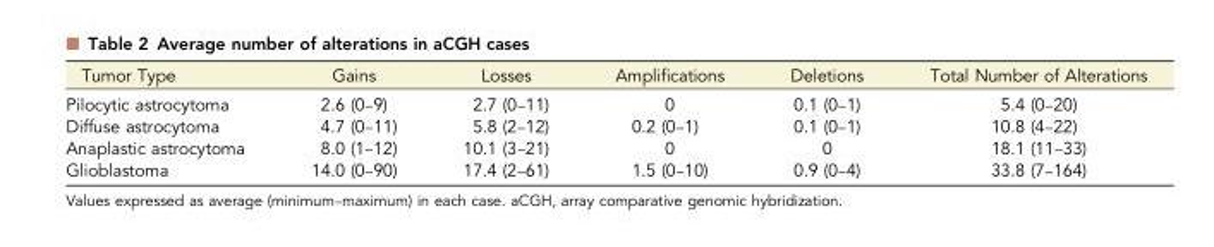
<table><thead><tr><td>Tumor Type</td><td>Gains</td><td>Losses</td><td>Amplifications</td><td>Deletions</td><td>Total Number of Alterations</td></tr></thead><tbody><tr><td>Pilocytic astrocytoma</td><td>2.6 (0–9)</td><td>2.7 (0–11)</td><td>0</td><td>0.1 (0–1)</td><td>5.4 (0–20)</td></tr><tr><td>Diffuse astrocytoma</td><td>4.7 (0–11)</td><td>5.8 (2–12)</td><td>0.2 (0–1)</td><td>0.1 (0–1)</td><td>10.8 (4–22)</td></tr><tr><td>Anaplastic astrocytoma</td><td>8.0 (1–12)</td><td>10.1 (3–21)</td><td>0</td><td>0</td><td>18.1 (11–33)</td></tr><tr><td>Glioblastoma</td><td>14.0 (0–90)</td><td>17.4 (2–61)</td><td>1.5 (0–10)</td><td>0.9 (0–4)</td><td>33.8 (7–164)</td></tr></tbody></table>